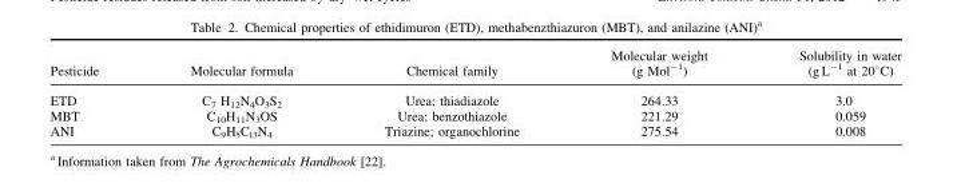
<table><thead><tr><td>Pesticide</td><td>Molecular formula</td><td>Chemical family</td><td>Molecular weight (g Mol<sup>−1</sup>)</td><td>Solubility in water (g L<sup>−1</sup> at 20°C)</td></tr></thead><tbody><tr><td>ETD</td><td>C<sub>7</sub> H<sub>12</sub>N<sub>4</sub>O<sub>3</sub>S<sub>2</sub></td><td>Urea; thiadiazole</td><td>264.33</td><td>3.0</td></tr><tr><td>MBT</td><td>C<sub>10</sub>H<sub>11</sub>N<sub>3</sub>OS</td><td>Urea; benzothiazole</td><td>221.29</td><td>0.059</td></tr><tr><td>ANI</td><td>C<sub>9</sub>H<sub>5</sub>C<sub>l3</sub>N<sub>4</sub></td><td>Triazine; organochlorine</td><td>275.54</td><td>0.008</td></tr></tbody></table>